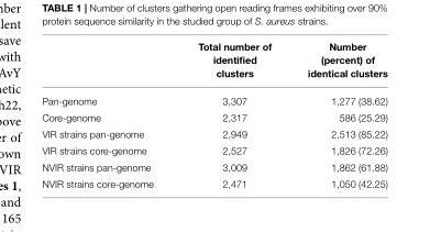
<table><thead><tr><td></td><td>Total number of identified clusters</td><td>Number (percent) of identical clusters</td></tr></thead><tbody><tr><td>Pan-genome</td><td>3,307</td><td>1,277 (38.62)</td></tr><tr><td>Core-genome</td><td>2,317</td><td>586 (25.29)</td></tr><tr><td>VIR strains pan-genome</td><td>2,949</td><td>2,513 (85.22)</td></tr><tr><td>VIR strains core-genome</td><td>2,527</td><td>1,826 (72.26)</td></tr><tr><td>NVIR strains pan-genome</td><td>3,009</td><td>1,862 (61.88)</td></tr><tr><td>NVIR strains core-genome</td><td>2,471</td><td>1,050 (42.25)</td></tr></tbody></table>